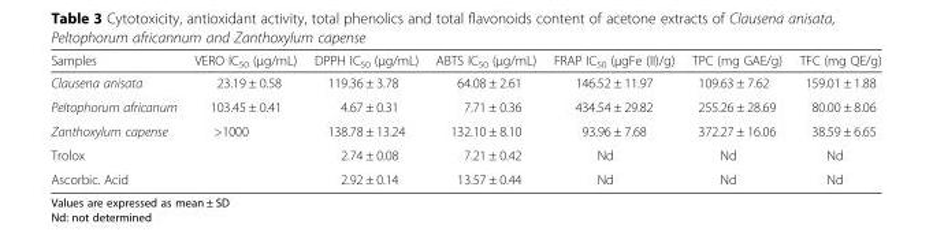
<table><thead><tr><td>Samples</td><td>VERO IC<sub>50</sub> (μg/mL)</td><td>DPPH IC<sub>50</sub> (μg/mL)</td><td>ABTS IC<sub>50</sub> (μg/mL)</td><td>FRAP IC<sub>50</sub> (μgFe (II)/g)</td><td>TPC (mg GAE/g)</td><td>TFC (mg QE/g)</td></tr></thead><tbody><tr><td>Clausena anisata</td><td>23.19 ± 0.58</td><td>119.36 ± 3.78</td><td>64.08 ± 2.61</td><td>146.52 ± 11.97</td><td>109.63 ± 7.62</td><td>159.01 ± 1.88</td></tr><tr><td>Peltophorum africanum</td><td>103.45 ± 0.41</td><td>4.67 ± 0.31</td><td>7.71 ± 0.36</td><td>434.54 ± 29.82</td><td>255.26 ± 28.69</td><td>80.00 ± 8.06</td></tr><tr><td>Zanthoxylum capense</td><td>&gt;1000</td><td>138.78 ± 13.24</td><td>132.10 ± 8.10</td><td>93.96 ± 7.68</td><td>372.27 ± 16.06</td><td>38.59 ± 6.65</td></tr><tr><td>Trolox</td><td></td><td>2.74 ± 0.08</td><td>7.21 ± 0.42</td><td>Nd</td><td>Nd</td><td>Nd</td></tr><tr><td>Ascorbic. Acid</td><td></td><td>2.92 ± 0.14</td><td>13.57 ± 0.44</td><td>Nd</td><td>Nd</td><td>Nd</td></tr></tbody></table>